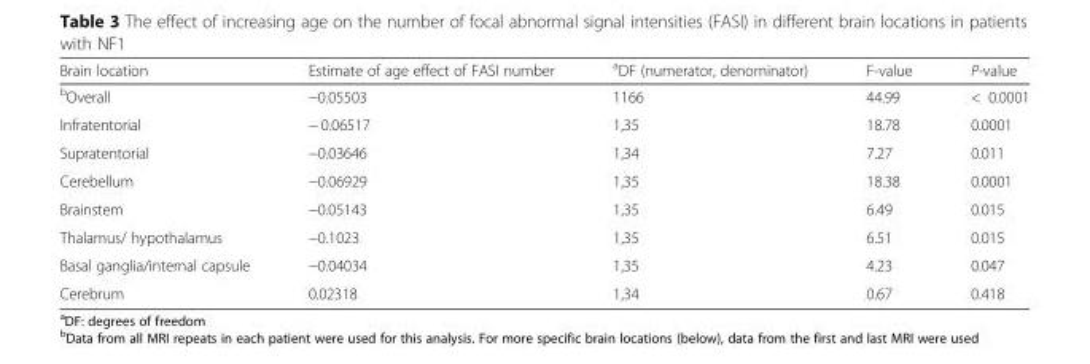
<table><thead><tr><td>Brain location</td><td>Estimate of age effect of FASI number</td><td><sup>a</sup>DF (numerator, denominator)</td><td>F-value</td><td>P-value</td></tr></thead><tbody><tr><td><sup>b</sup>Overall</td><td>−0.05503</td><td>1166</td><td>44.99</td><td>&lt; 0.0001</td></tr><tr><td>Infratentorial</td><td>− 0.06517</td><td>1,35</td><td>18.78</td><td>0.0001</td></tr><tr><td>Supratentorial</td><td>−0.03646</td><td>1,34</td><td>7.27</td><td>0.011</td></tr><tr><td>Cerebellum</td><td>−0.06929</td><td>1,35</td><td>18.38</td><td>0.0001</td></tr><tr><td>Brainstem</td><td>−0.05143</td><td>1,35</td><td>6.49</td><td>0.015</td></tr><tr><td>Thalamus/ hypothalamus</td><td>−0.1023</td><td>1,35</td><td>6.51</td><td>0.015</td></tr><tr><td>Basal ganglia/internal capsule</td><td>−0.04034</td><td>1,35</td><td>4.23</td><td>0.047</td></tr><tr><td>Cerebrum</td><td>0.02318</td><td>1,34</td><td>0.67</td><td>0.418</td></tr></tbody></table>